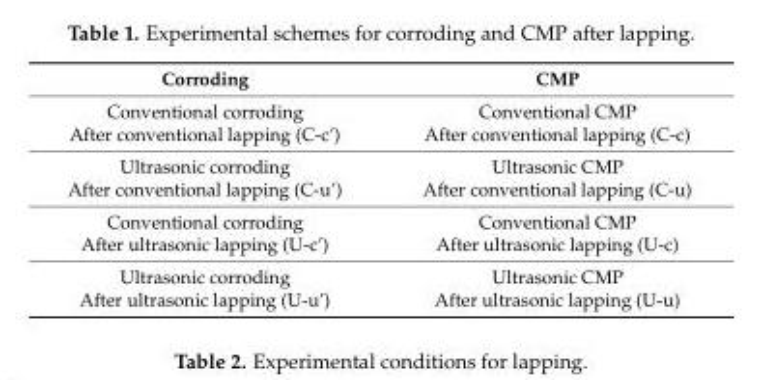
<table><thead><tr><td>Corroding</td><td>CMP</td></tr></thead><tbody><tr><td>Conventional corroding After conventional lapping (C-c’)</td><td>Conventional CMP After conventional lapping (C-c)</td></tr><tr><td>Ultrasonic corroding After conventional lapping (C-u’)</td><td>Ultrasonic CMP After conventional lapping (C-u)</td></tr><tr><td>Conventional corroding After ultrasonic lapping (U-c’)</td><td>Conventional CMP After ultrasonic lapping (U-c)</td></tr><tr><td>Ultrasonic corroding After ultrasonic lapping (U-u’)</td><td>Ultrasonic CMP After ultrasonic lapping (U-u)</td></tr></tbody></table>